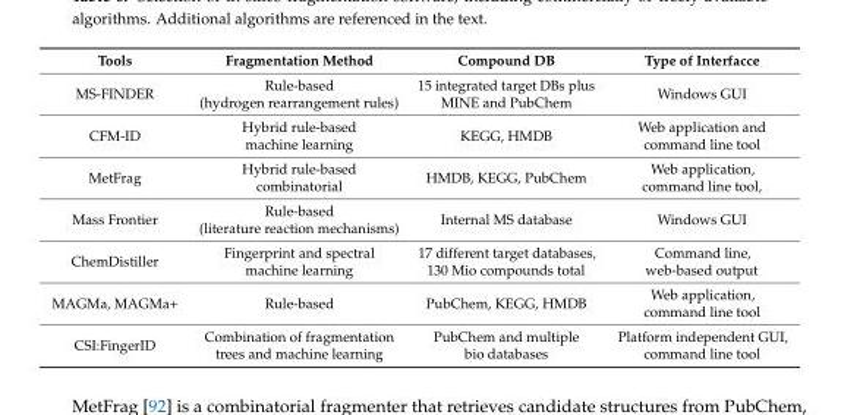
<table><thead><tr><td>Tools</td><td>Fragmentation Method</td><td>Compound DB</td><td>Type of Interfacce</td></tr></thead><tbody><tr><td>MS-FINDER</td><td>Rule-based (hydrogen rearrangement rules)</td><td>15 integrated target DBs plus MINE and PubChem</td><td>Windows GUI</td></tr><tr><td>CFM-ID</td><td>Hybrid rule-based machine learning</td><td>KEGG, HMDB</td><td>Web application and command line tool</td></tr><tr><td>MetFrag</td><td>Hybrid rule-based combinatorial</td><td>HMDB, KEGG, PubChem</td><td>Web application, command line tool,</td></tr><tr><td>Mass Frontier</td><td>Rule-based (literature reaction mechanisms)</td><td>Internal MS database</td><td>Windows GUI</td></tr><tr><td>ChemDistiller</td><td>Fingerprint and spectral machine learning</td><td>17 different target databases, 130 Mio compounds total</td><td>Command line, web-based output</td></tr><tr><td>MAGMa, MAGMa+</td><td>Rule-based</td><td>PubChem, KEGG, HMDB</td><td>Web application, command line tool</td></tr><tr><td>CSI:FingerID</td><td>Combination of fragmentation trees and machine learning</td><td>PubChem and multiple bio databases</td><td>Platform independent GUI, command line tool</td></tr></tbody></table>